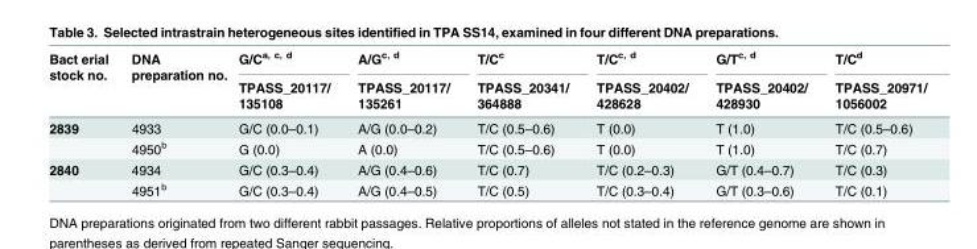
<table><thead><tr><td rowspan="2">Bact erial stock no.</td><td rowspan="2">DNA preparation no.</td><td rowspan="2">G/C<sup>a, c, d</sup> TPASS_20117/ 135108</td><td rowspan="2">A/G<sup>c, d</sup> TPASS_20117/ 135261</td><td rowspan="2">T/C<sup>c</sup> TPASS_20341/ 364888</td><td rowspan="2">T/C<sup>c, d</sup> TPASS_20402/ 428628</td><td rowspan="2">G/T<sup>c, d</sup> TPASS_20402/ 428930</td><td rowspan="2">T/C<sup>d</sup> TPASS_20971/ 1056002</td></tr><tr></tr></thead><tbody><tr><td rowspan="2">2839</td><td>4933</td><td>G/C (0.0–0.1)</td><td>A/G (0.0–0.2)</td><td>T/C (0.5–0.6)</td><td>T (0.0)</td><td>T (1.0)</td><td>T/C (0.5–0.6)</td></tr><tr><td>4950<sup>b</sup></td><td>G (0.0)</td><td>A (0.0)</td><td>T/C (0.5–0.6)</td><td>T (0.0)</td><td>T (1.0)</td><td>T/C (0.7)</td></tr><tr><td rowspan="2">2840</td><td>4934</td><td>G/C (0.3–0.4)</td><td>A/G (0.4–0.6)</td><td>T/C (0.7)</td><td>T/C (0.2–0.3)</td><td>G/T (0.4–0.7)</td><td>T/C (0.3)</td></tr><tr><td>4951<sup>b</sup></td><td>G/C (0.3–0.4)</td><td>A/G (0.4–0.5)</td><td>T/C (0.5)</td><td>T/C (0.3–0.4)</td><td>G/T (0.3–0.6)</td><td>T/C (0.1)</td></tr></tbody></table>